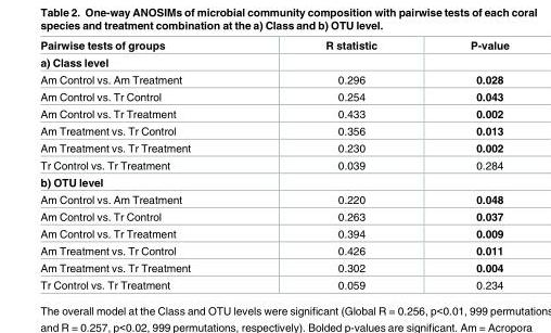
<table><thead><tr><td>Pairwise tests of groups</td><td>R statistic</td><td>P-value</td></tr></thead><tbody><tr><td colspan="3">a) Class level</td></tr><tr><td>Am Control vs. Am Treatment</td><td>0.296</td><td>0.028</td></tr><tr><td>Am Control vs. Tr Control</td><td>0.254</td><td>0.043</td></tr><tr><td>Am Control vs. Tr Treatment</td><td>0.433</td><td>0.002</td></tr><tr><td>Am Treatment vs. Tr Control</td><td>0.356</td><td>0.013</td></tr><tr><td>Am Treatment vs. Tr Treatment</td><td>0.230</td><td>0.002</td></tr><tr><td>Tr Control vs. Tr Treatment</td><td>0.039</td><td>0.284</td></tr><tr><td colspan="3">b) OTU level</td></tr><tr><td>Am Control vs. Am Treatment</td><td>0.220</td><td>0.048</td></tr><tr><td>Am Control vs. Tr Control</td><td>0.263</td><td>0.037</td></tr><tr><td>Am Control vs. Tr Treatment</td><td>0.394</td><td>0.009</td></tr><tr><td>Am Treatment vs. Tr Control</td><td>0.426</td><td>0.011</td></tr><tr><td>Am Treatment vs. Tr Treatment</td><td>0.302</td><td>0.004</td></tr><tr><td>Tr Control vs. Tr Treatment</td><td>0.059</td><td>0.234</td></tr></tbody></table>